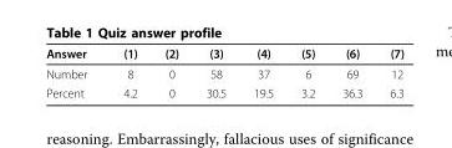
<table><thead><tr><td>Answer</td><td>(1)</td><td>(2)</td><td>(3)</td><td>(4)</td><td>(5)</td><td>(6)</td><td>(7)</td></tr></thead><tbody><tr><td>Number</td><td>8</td><td>0</td><td>58</td><td>37</td><td>6</td><td>69</td><td>12</td></tr><tr><td>Percent</td><td>4.2</td><td>0</td><td>30.5</td><td>19.5</td><td>3.2</td><td>36.3</td><td>6.3</td></tr></tbody></table>